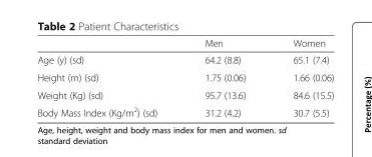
<table><thead><tr><td></td><td>Men</td><td>Women</td></tr></thead><tbody><tr><td>Age (y) (sd)</td><td>64.2 (8.8)</td><td>65.1 (7.4)</td></tr><tr><td>Height (m) (sd)</td><td>1.75 (0.06)</td><td>1.66 (0.06)</td></tr><tr><td>Weight (Kg) (sd)</td><td>95.7 (13.6)</td><td>84.6 (15.5)</td></tr><tr><td>Body Mass Index (Kg/m<sup>2</sup>) (sd)</td><td>31.2 (4.2)</td><td>30.7 (5.5)</td></tr></tbody></table>